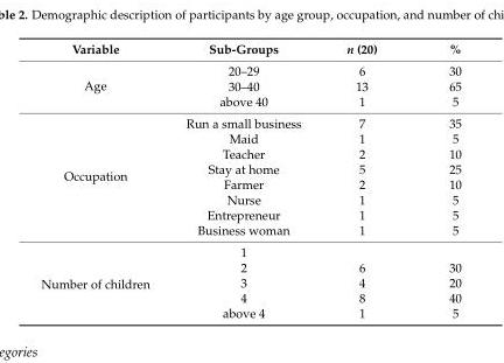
<table><thead><tr><td>Variable</td><td>Sub-Groups</td><td>n (20)</td><td>%</td></tr></thead><tbody><tr><td rowspan="3">Age</td><td>20–29</td><td>6</td><td>30</td></tr><tr><td>30–40</td><td>13</td><td>65</td></tr><tr><td>above 40</td><td>1</td><td>5</td></tr><tr><td rowspan="8">Occupation</td><td>Run a small business</td><td>7</td><td>35</td></tr><tr><td>Maid</td><td>1</td><td>5</td></tr><tr><td>Teacher</td><td>2</td><td>10</td></tr><tr><td>Stay at home</td><td>5</td><td>25</td></tr><tr><td>Farmer</td><td>2</td><td>10</td></tr><tr><td>Nurse</td><td>1</td><td>5</td></tr><tr><td>Entrepreneur</td><td>1</td><td>5</td></tr><tr><td>Business woman</td><td>1</td><td>5</td></tr><tr><td rowspan="5">Number of children</td><td>1</td><td></td><td></td></tr><tr><td>2</td><td>6</td><td>30</td></tr><tr><td>3</td><td>4</td><td>20</td></tr><tr><td>4</td><td>8</td><td>40</td></tr><tr><td>above 4</td><td>1</td><td>5</td></tr></tbody></table>